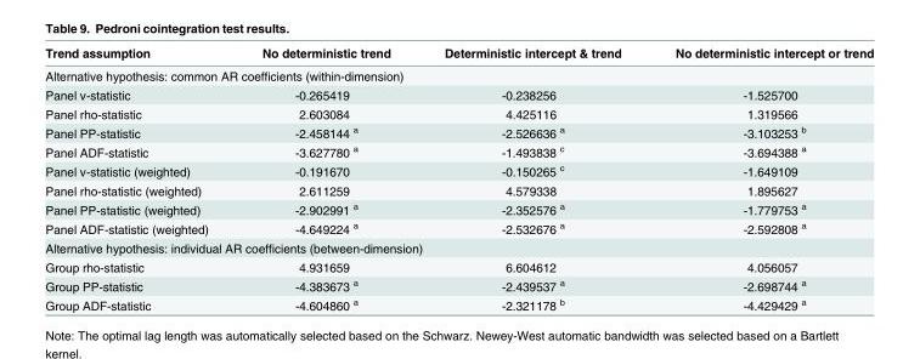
<table><thead><tr><td>Trend assumption</td><td>No deterministic trend</td><td>Deterministic intercept &amp; trend</td><td>No deterministic intercept or trend</td></tr></thead><tbody><tr><td colspan="4">Alternative hypothesis: common AR coefficients (within-dimension)</td></tr><tr><td>Panel v-statistic</td><td>-0.265419</td><td>-0.238256</td><td>-1.525700</td></tr><tr><td>Panel rho-statistic</td><td>2.603084</td><td>4.425116</td><td>1.319566</td></tr><tr><td>Panel PP-statistic</td><td>-2.458144 <sup>a</sup></td><td>-2.526636 <sup>a</sup></td><td>-3.103253 <sup>b</sup></td></tr><tr><td>Panel ADF-statistic</td><td>-3.627780 <sup>a</sup></td><td>-1.493838 <sup>c</sup></td><td>-3.694388 <sup>a</sup></td></tr><tr><td>Panel v-statistic (weighted)</td><td>-0.191670</td><td>-0.150265 <sup>c</sup></td><td>-1.649109</td></tr><tr><td>Panel rho-statistic (weighted)</td><td>2.611259</td><td>4.579338</td><td>1.895627</td></tr><tr><td>Panel PP-statistic (weighted)</td><td>-2.902991 <sup>a</sup></td><td>-2.352576 <sup>a</sup></td><td>-1.779753 <sup>a</sup></td></tr><tr><td>Panel ADF-statistic (weighted)</td><td>-4.649224 <sup>a</sup></td><td>-2.532676 <sup>a</sup></td><td>-2.592808 <sup>a</sup></td></tr><tr><td colspan="4">Alternative hypothesis: individual AR coefficients (between-dimension)</td></tr><tr><td>Group rho-statistic</td><td>4.931659</td><td>6.604612</td><td>4.056057</td></tr><tr><td>Group PP-statistic</td><td>-4.383673 <sup>a</sup></td><td>-2.439537 <sup>a</sup></td><td>-2.698744 <sup>a</sup></td></tr><tr><td>Group ADF-statistic</td><td>-4.604860 <sup>a</sup></td><td>-2.321178 <sup>b</sup></td><td>-4.429429 <sup>a</sup></td></tr></tbody></table>